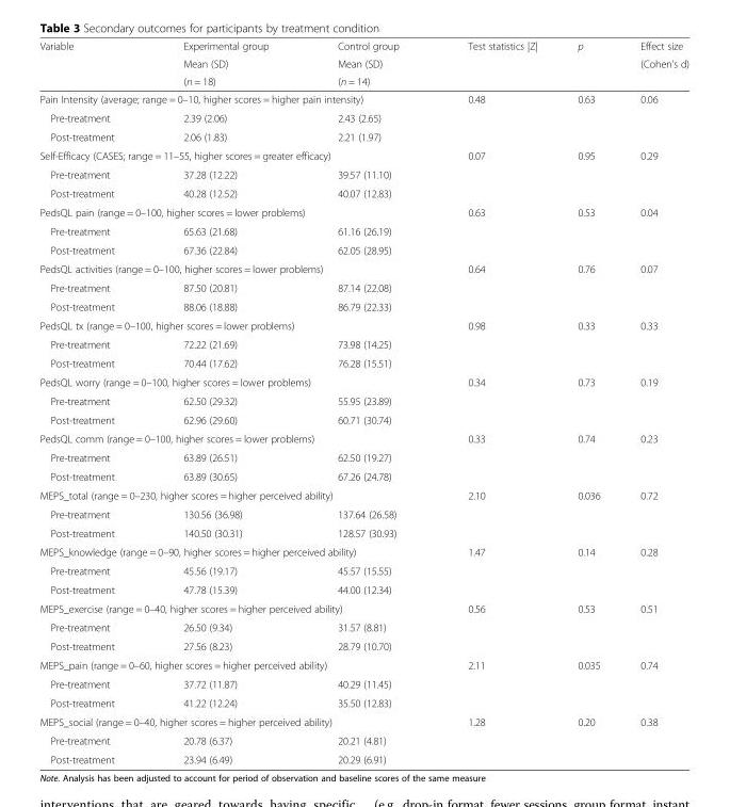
<table><thead><tr><td rowspan="3">Variable</td><td rowspan="3">Experimental group Mean (SD) (n = 18)</td><td rowspan="3">Control group Mean (SD) (n = 14)</td><td rowspan="3">Test statistics |Z|</td><td rowspan="3">p</td><td rowspan="3">Effect size (Cohen’s d)</td></tr><tr></tr><tr></tr></thead><tbody><tr><td colspan="3">Pain Intensity (average; range = 0–10, higher scores = higher pain intensity)</td><td>0.48</td><td>0.63</td><td>0.06</td></tr><tr><td>Pre-treatment</td><td>2.39 (2.06)</td><td>2.43 (2.65)</td><td></td><td></td><td></td></tr><tr><td>Post-treatment</td><td>2.06 (1.83)</td><td>2.21 (1.97)</td><td></td><td></td><td></td></tr><tr><td colspan="3">Self-Efficacy (CASES; range = 11–55, higher scores = greater efficacy)</td><td>0.07</td><td>0.95</td><td>0.29</td></tr><tr><td>Pre-treatment</td><td>37.28 (12.22)</td><td>39.57 (11.10)</td><td></td><td></td><td></td></tr><tr><td>Post-treatment</td><td>40.28 (12.52)</td><td>40.07 (12.83)</td><td></td><td></td><td></td></tr><tr><td colspan="3">PedsQL pain (range = 0–100, higher scores = lower problems)</td><td>0.63</td><td>0.53</td><td>0.04</td></tr><tr><td>Pre-treatment</td><td>65.63 (21.68)</td><td>61.16 (26.19)</td><td></td><td></td><td></td></tr><tr><td>Post-treatment</td><td>67.36 (22.84)</td><td>62.05 (28.95)</td><td></td><td></td><td></td></tr><tr><td colspan="3">PedsQL activities (range = 0–100, higher scores = lower problems)</td><td>0.64</td><td>0.76</td><td>0.07</td></tr><tr><td>Pre-treatment</td><td>87.50 (20.81)</td><td>87.14 (22.08)</td><td></td><td></td><td></td></tr><tr><td>Post-treatment</td><td>88.06 (18.88)</td><td>86.79 (22.33)</td><td></td><td></td><td></td></tr><tr><td colspan="3">PedsQL tx (range = 0–100, higher scores = lower problems)</td><td>0.98</td><td>0.33</td><td>0.33</td></tr><tr><td>Pre-treatment</td><td>72.22 (21.69)</td><td>73.98 (14.25)</td><td></td><td></td><td></td></tr><tr><td>Post-treatment</td><td>70.44 (17.62)</td><td>76.28 (15.51)</td><td></td><td></td><td></td></tr><tr><td colspan="3">PedsQL worry (range = 0–100, higher scores = lower problems)</td><td>0.34</td><td>0.73</td><td>0.19</td></tr><tr><td>Pre-treatment</td><td>62.50 (29.32)</td><td>55.95 (23.89)</td><td></td><td></td><td></td></tr><tr><td>Post-treatment</td><td>62.96 (29.60)</td><td>60.71 (30.74)</td><td></td><td></td><td></td></tr><tr><td colspan="3">PedsQL comm (range = 0–100, higher scores = lower problems)</td><td>0.33</td><td>0.74</td><td>0.23</td></tr><tr><td>Pre-treatment</td><td>63.89 (26.51)</td><td>62.50 (19.27)</td><td></td><td></td><td></td></tr><tr><td>Post-treatment</td><td>63.89 (30.65)</td><td>67.26 (24.78)</td><td></td><td></td><td></td></tr><tr><td colspan="3">MEPS_total (range = 0–230, higher scores = higher perceived ability)</td><td>2.10</td><td>0.036</td><td>0.72</td></tr><tr><td>Pre-treatment</td><td>130.56 (36.98)</td><td>137.64 (26.58)</td><td></td><td></td><td></td></tr><tr><td>Post-treatment</td><td>140.50 (30.31)</td><td>128.57 (30.93)</td><td></td><td></td><td></td></tr><tr><td colspan="3">MEPS_knowledge (range = 0–90, higher scores = higher perceived ability)</td><td>1.47</td><td>0.14</td><td>0.28</td></tr><tr><td>Pre-treatment</td><td>45.56 (19.17)</td><td>45.57 (15.55)</td><td></td><td></td><td></td></tr><tr><td>Post-treatment</td><td>47.78 (15.39)</td><td>44.00 (12.34)</td><td></td><td></td><td></td></tr><tr><td colspan="3">MEPS_exercise (range = 0–40, higher scores = higher perceived ability)</td><td>0.56</td><td>0.53</td><td>0.51</td></tr><tr><td>Pre-treatment</td><td>26.50 (9.34)</td><td>31.57 (8.81)</td><td></td><td></td><td></td></tr><tr><td>Post-treatment</td><td>27.56 (8.23)</td><td>28.79 (10.70)</td><td></td><td></td><td></td></tr><tr><td colspan="3">MEPS_pain (range = 0–60, higher scores = higher perceived ability)</td><td>2.11</td><td>0.035</td><td>0.74</td></tr><tr><td>Pre-treatment</td><td>37.72 (11.87)</td><td>40.29 (11.45)</td><td></td><td></td><td></td></tr><tr><td>Post-treatment</td><td>41.22 (12.24)</td><td>35.50 (12.83)</td><td></td><td></td><td></td></tr><tr><td colspan="3">MEPS_social (range = 0–40, higher scores = higher perceived ability)</td><td>1.28</td><td>0.20</td><td>0.38</td></tr><tr><td>Pre-treatment</td><td>20.78 (6.37)</td><td>20.21 (4.81)</td><td></td><td></td><td></td></tr><tr><td>Post-treatment</td><td>23.94 (6.49)</td><td>20.29 (6.91)</td><td></td><td></td><td></td></tr></tbody></table>